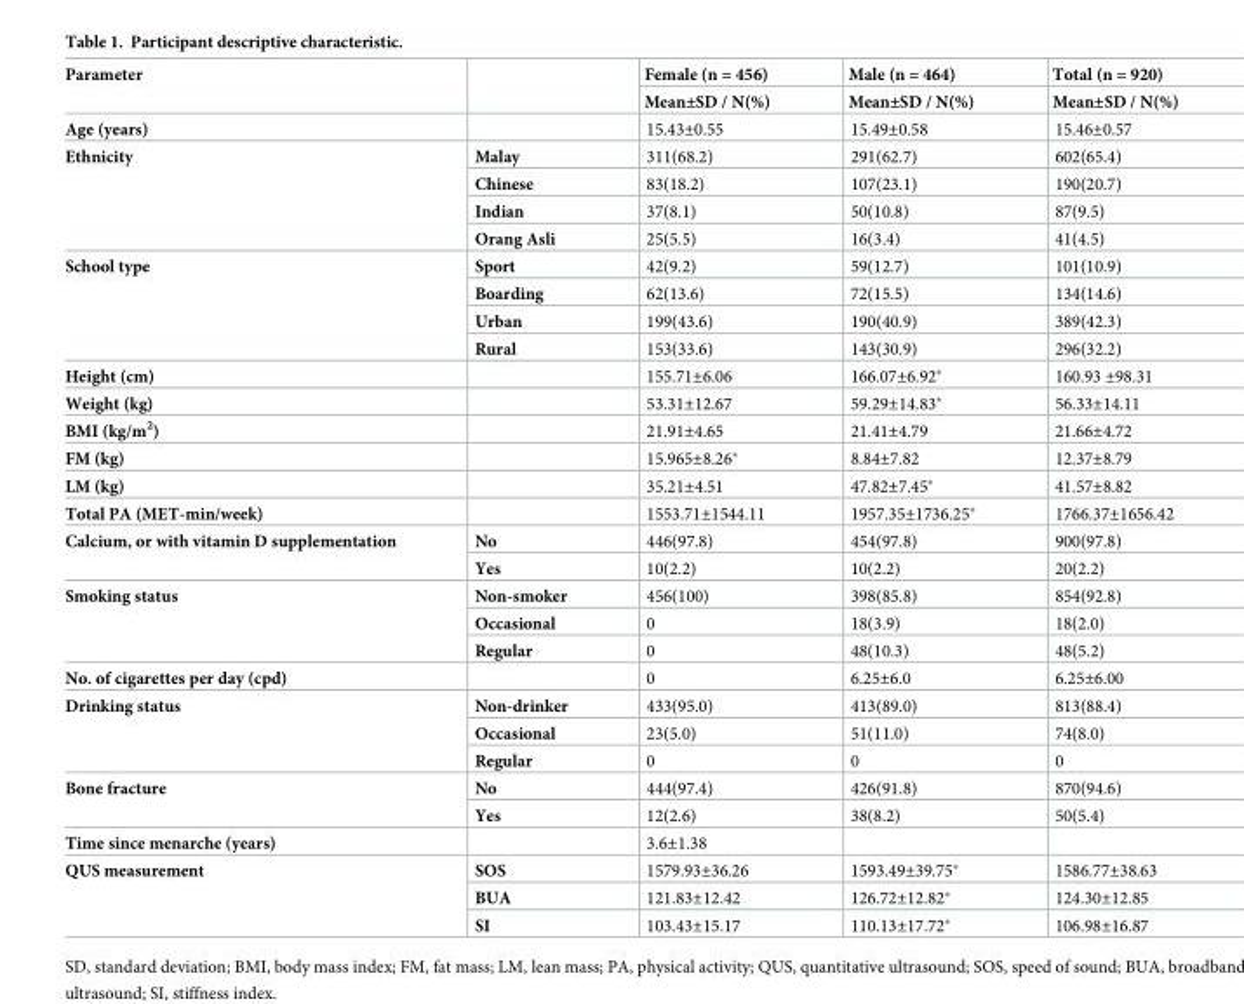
<table><thead><tr><td rowspan="2">Parameter</td><td rowspan="2"></td><td rowspan="2">Female (n = 456) Mean±SD / N(%)</td><td rowspan="2">Male (n = 464) Mean±SD / N(%)</td><td rowspan="2">Total (n = 920) Mean±SD / N(%)</td></tr><tr></tr></thead><tbody><tr><td>Age (years)</td><td></td><td>15.43±0.55</td><td>15.49±0.58</td><td>15.46±0.57</td></tr><tr><td rowspan="4">Ethnicity</td><td>Malay</td><td>311(68.2)</td><td>291(62.7)</td><td>602(65.4)</td></tr><tr><td>Chinese</td><td>83(18.2)</td><td>107(23.1)</td><td>190(20.7)</td></tr><tr><td>Indian</td><td>37(8.1)</td><td>50(10.8)</td><td>87(9.5)</td></tr><tr><td>Orang Asli</td><td>25(5.5)</td><td>16(3.4)</td><td>41(4.5)</td></tr><tr><td rowspan="4">School type</td><td>Sport</td><td>42(9.2)</td><td>59(12.7)</td><td>101(10.9)</td></tr><tr><td>Boarding</td><td>62(13.6)</td><td>72(15.5)</td><td>134(14.6)</td></tr><tr><td>Urban</td><td>199(43.6)</td><td>190(40.9)</td><td>389(42.3)</td></tr><tr><td>Rural</td><td>153(33.6)</td><td>143(30.9)</td><td>296(32.2)</td></tr><tr><td>Height (cm)</td><td></td><td>155.71±6.06</td><td>166.07±6.92*</td><td>160.93 ±98.31</td></tr><tr><td>Weight (kg)</td><td></td><td>53.31±12.67</td><td>59.29±14.83*</td><td>56.33±14.11</td></tr><tr><td>BMI (kg/m<sup>2</sup>)</td><td></td><td>21.91±4.65</td><td>21.41±4.79</td><td>21.66±4.72</td></tr><tr><td>FM (kg)</td><td></td><td>15.965±8.26*</td><td>8.84±7.82</td><td>12.37±8.79</td></tr><tr><td>LM (kg)</td><td></td><td>35.21±4.51</td><td>47.82±7.45*</td><td>41.57±8.82</td></tr><tr><td>Total PA (MET-min/week)</td><td></td><td>1553.71±1544.11</td><td>1957.35±1736.25*</td><td>1766.37±1656.42</td></tr><tr><td rowspan="2">Calcium, or with vitamin D supplementation</td><td>No</td><td>446(97.8)</td><td>454(97.8)</td><td>900(97.8)</td></tr><tr><td>Yes</td><td>10(2.2)</td><td>10(2.2)</td><td>20(2.2)</td></tr><tr><td rowspan="3">Smoking status</td><td>Non-smoker</td><td>456(100)</td><td>398(85.8)</td><td>854(92.8)</td></tr><tr><td>Occasional</td><td>0</td><td>18(3.9)</td><td>18(2.0)</td></tr><tr><td>Regular</td><td>0</td><td>48(10.3)</td><td>48(5.2)</td></tr><tr><td>No. of cigarettes per day (cpd)</td><td></td><td>0</td><td>6.25±6.0</td><td>6.25±6.00</td></tr><tr><td rowspan="3">Drinking status</td><td>Non-drinker</td><td>433(95.0)</td><td>413(89.0)</td><td>813(88.4)</td></tr><tr><td>Occasional</td><td>23(5.0)</td><td>51(11.0)</td><td>74(8.0)</td></tr><tr><td>Regular</td><td>0</td><td>0</td><td>0</td></tr><tr><td rowspan="2">Bone fracture</td><td>No</td><td>444(97.4)</td><td>426(91.8)</td><td>870(94.6)</td></tr><tr><td>Yes</td><td>12(2.6)</td><td>38(8.2)</td><td>50(5.4)</td></tr><tr><td>Time since menarche (years)</td><td></td><td>3.6±1.38</td><td></td><td></td></tr><tr><td rowspan="3">QUS measurement</td><td>SOS</td><td>1579.93±36.26</td><td>1593.49±39.75*</td><td>1586.77±38.63</td></tr><tr><td>BUA</td><td>121.83±12.42</td><td>126.72±12.82*</td><td>124.30±12.85</td></tr><tr><td>SI</td><td>103.43±15.17</td><td>110.13±17.72*</td><td>106.98±16.87</td></tr></tbody></table>